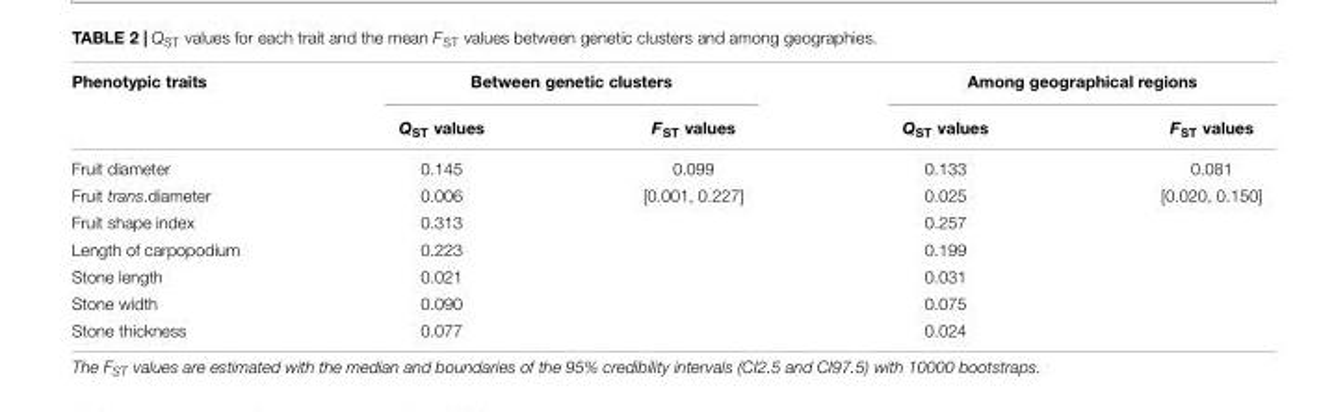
<table><thead><tr><td rowspan="2">Phenotypic traits</td><td colspan="2">Between genetic clusters</td><td colspan="2">Among geographical regions</td></tr><tr><td>Q<sub>ST</sub> values</td><td>F<sub>ST</sub> values</td><td>Q<sub>ST</sub> values</td><td>F<sub>ST</sub> values</td></tr></thead><tbody><tr><td>Fruit diameter</td><td>0.145</td><td>0.099</td><td>0.133</td><td>0.081</td></tr><tr><td>Fruit trans.diameter</td><td>0.006</td><td>[0.001, 0.227]</td><td>0.025</td><td>[0.020, 0.150]</td></tr><tr><td>Fruit shape index</td><td>0.313</td><td></td><td>0.257</td><td></td></tr><tr><td>Length of carpopodium</td><td>0.223</td><td></td><td>0.199</td><td></td></tr><tr><td>Stone length</td><td>0.021</td><td></td><td>0.031</td><td></td></tr><tr><td>Stone width</td><td>0.090</td><td></td><td>0.075</td><td></td></tr><tr><td>Stone thickness</td><td>0.077</td><td></td><td>0.024</td><td></td></tr></tbody></table>